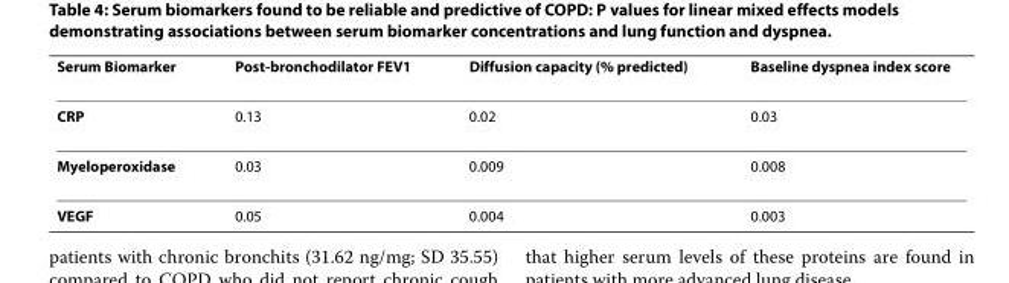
<table><thead><tr><td>Serum Biomarker</td><td>Post-bronchodilator FEV1</td><td>Diffusion capacity (% predicted)</td><td>Baseline dyspnea index score</td></tr></thead><tbody><tr><td>CRP</td><td>0.13</td><td>0.02</td><td>0.03</td></tr><tr><td>Myeloperoxidase</td><td>0.03</td><td>0.009</td><td>0.008</td></tr><tr><td>VEGF</td><td>0.05</td><td>0.004</td><td>0.003</td></tr></tbody></table>